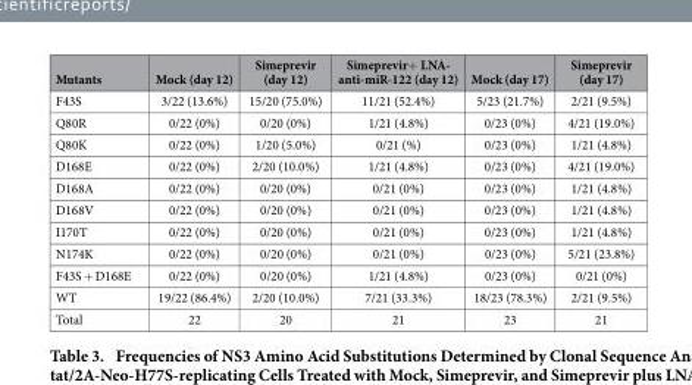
<table><thead><tr><td>Mutants</td><td>Mock (day 12)</td><td>Simeprevir (day 12)</td><td>Simeprevir+ LNA- anti-miR-122 (day 12)</td><td>Mock (day 17)</td><td>Simeprevir (day 17)</td></tr></thead><tbody><tr><td>F43S</td><td>3/22 (13.6%)</td><td>15/20 (75.0%)</td><td>11/21 (52.4%)</td><td>5/23 (21.7%)</td><td>2/21 (9.5%)</td></tr><tr><td>Q80R</td><td>0/22 (0%)</td><td>0/20 (0%)</td><td>1/21 (4.8%)</td><td>0/23 (0%)</td><td>4/21 (19.0%)</td></tr><tr><td>Q80K</td><td>0/22 (0%)</td><td>1/20 (5.0%)</td><td>0/21 (%)</td><td>0/23 (0%)</td><td>1/21 (4.8%)</td></tr><tr><td>D168E</td><td>0/22 (0%)</td><td>2/20 (10.0%)</td><td>1/21 (4.8%)</td><td>0/23 (0%)</td><td>4/21 (19.0%)</td></tr><tr><td>D168A</td><td>0/22 (0%)</td><td>0/20 (0%)</td><td>0/21 (0%)</td><td>0/23 (0%)</td><td>1/21 (4.8%)</td></tr><tr><td>D168V</td><td>0/22 (0%)</td><td>0/20 (0%)</td><td>0/21 (0%)</td><td>0/23 (0%)</td><td>1/21 (4.8%)</td></tr><tr><td>I170T</td><td>0/22 (0%)</td><td>0/20 (0%)</td><td>0/21 (0%)</td><td>0/23 (0%)</td><td>1/21 (4.8%)</td></tr><tr><td>N174K</td><td>0/22 (0%)</td><td>0/20 (0%)</td><td>0/21 (0%)</td><td>0/23 (0%)</td><td>5/21 (23.8%)</td></tr><tr><td>F43S + D168E</td><td>0/22 (0%)</td><td>0/20 (0%)</td><td>1/21 (4.8%)</td><td>0/23 (0%)</td><td>0/21 (0%)</td></tr><tr><td>WT</td><td>19/22 (86.4%)</td><td>2/20 (10.0%)</td><td>7/21 (33.3%)</td><td>18/23 (78.3%)</td><td>2/21 (9.5%)</td></tr><tr><td>Total</td><td>22</td><td>20</td><td>21</td><td>23</td><td>21</td></tr></tbody></table>